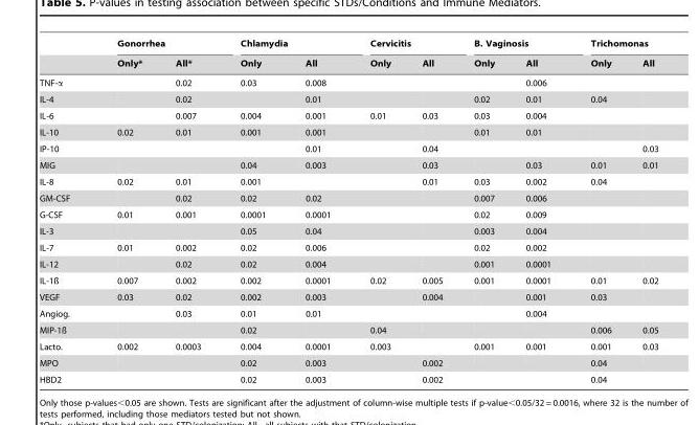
<table><thead><tr><td rowspan="2"></td><td colspan="2">Gonorrhea</td><td colspan="2">Chlamydia</td><td colspan="2">Cervicitis</td><td colspan="2">B. Vaginosis</td><td colspan="2">Trichomonas</td></tr><tr><td>Only*</td><td>All*</td><td>Only</td><td>All</td><td>Only</td><td>All</td><td>Only</td><td>All</td><td>Only</td><td>All</td></tr></thead><tbody><tr><td>TNF-α</td><td></td><td>0.02</td><td>0.03</td><td>0.008</td><td></td><td></td><td></td><td>0.006</td><td></td><td></td></tr><tr><td>IL-4</td><td></td><td>0.02</td><td></td><td>0.01</td><td></td><td></td><td>0.02</td><td>0.01</td><td>0.04</td><td></td></tr><tr><td>IL-6</td><td></td><td>0.007</td><td>0.004</td><td>0.001</td><td>0.01</td><td>0.03</td><td>0.03</td><td>0.004</td><td></td><td></td></tr><tr><td>IL-10</td><td>0.02</td><td>0.01</td><td>0.001</td><td>0.001</td><td></td><td></td><td>0.01</td><td>0.01</td><td></td><td></td></tr><tr><td>IP-10</td><td></td><td></td><td></td><td>0.01</td><td></td><td>0.04</td><td></td><td></td><td></td><td>0.03</td></tr><tr><td>MIG</td><td></td><td></td><td>0.04</td><td>0.003</td><td></td><td>0.03</td><td></td><td>0.03</td><td>0.01</td><td>0.01</td></tr><tr><td>IL-8</td><td>0.02</td><td>0.01</td><td>0.001</td><td></td><td></td><td>0.01</td><td>0.03</td><td>0.002</td><td>0.04</td><td></td></tr><tr><td>GM-CSF</td><td></td><td>0.02</td><td>0.02</td><td>0.02</td><td></td><td></td><td>0.007</td><td>0.006</td><td></td><td></td></tr><tr><td>G-CSF</td><td>0.01</td><td>0.001</td><td>0.0001</td><td>0.0001</td><td></td><td></td><td>0.02</td><td>0.009</td><td></td><td></td></tr><tr><td>IL-3</td><td></td><td></td><td>0.05</td><td>0.04</td><td></td><td></td><td>0.003</td><td>0.004</td><td></td><td></td></tr><tr><td>IL-7</td><td>0.01</td><td>0.002</td><td>0.02</td><td>0.006</td><td></td><td></td><td>0.02</td><td>0.002</td><td></td><td></td></tr><tr><td>IL-12</td><td></td><td>0.02</td><td>0.02</td><td>0.004</td><td></td><td></td><td>0.001</td><td>0.0001</td><td></td><td></td></tr><tr><td>IL-1ß</td><td>0.007</td><td>0.002</td><td>0.002</td><td>0.0001</td><td>0.02</td><td>0.005</td><td>0.001</td><td>0.0001</td><td>0.01</td><td>0.02</td></tr><tr><td>VEGF</td><td>0.03</td><td>0.02</td><td>0.002</td><td>0.003</td><td></td><td>0.004</td><td></td><td>0.001</td><td>0.03</td><td></td></tr><tr><td>Angiog.</td><td></td><td>0.03</td><td>0.01</td><td>0.01</td><td></td><td></td><td></td><td>0.004</td><td></td><td></td></tr><tr><td>MIP-1ß</td><td></td><td></td><td>0.02</td><td></td><td>0.04</td><td></td><td></td><td></td><td>0.006</td><td>0.05</td></tr><tr><td>Lacto.</td><td>0.002</td><td>0.0003</td><td>0.004</td><td>0.0001</td><td>0.003</td><td></td><td>0.001</td><td>0.001</td><td>0.001</td><td>0.03</td></tr><tr><td>MPO</td><td></td><td></td><td>0.02</td><td>0.003</td><td></td><td>0.002</td><td></td><td></td><td>0.04</td><td></td></tr><tr><td>HBD2</td><td></td><td></td><td>0.02</td><td>0.003</td><td></td><td>0.002</td><td></td><td></td><td>0.04</td><td></td></tr></tbody></table>